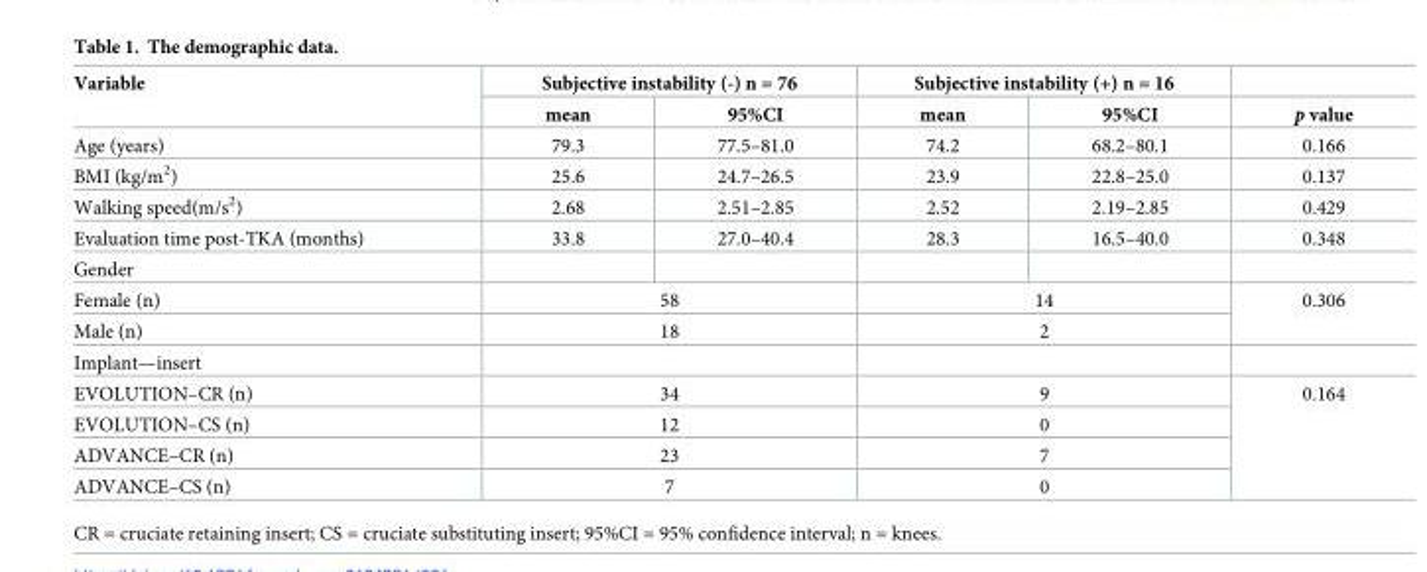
<table><thead><tr><td rowspan="2">Variable</td><td colspan="2">Subjective instability (-) n = 76</td><td colspan="2">Subjective instability (+) n = 16</td><td rowspan="2">p value</td></tr><tr><td>mean</td><td>95%CI</td><td>mean</td><td>95%CI</td></tr></thead><tbody><tr><td>Age (years)</td><td>79.3</td><td>77.5–81.0</td><td>74.2</td><td>68.2–80.1</td><td>0.166</td></tr><tr><td>BMI (kg/m<sup>2</sup>)</td><td>25.6</td><td>24.7–26.5</td><td>23.9</td><td>22.8–25.0</td><td>0.137</td></tr><tr><td>Walking speed(m/s<sup>2</sup>)</td><td>2.68</td><td>2.51–2.85</td><td>2.52</td><td>2.19–2.85</td><td>0.429</td></tr><tr><td>Evaluation time post-TKA (months)</td><td>33.8</td><td>27.0–40.4</td><td>28.3</td><td>16.5–40.0</td><td>0.348</td></tr><tr><td colspan="6">Gender</td></tr><tr><td>Female (n)</td><td colspan="2">58</td><td colspan="2">14</td><td rowspan="2">0.306</td></tr><tr><td>Male (n)</td><td colspan="2">18</td><td colspan="2">2</td></tr><tr><td colspan="6">Implant—insert</td></tr><tr><td>EVOLUTION–CR (n)</td><td colspan="2">34</td><td colspan="2">9</td><td rowspan="4">0.164</td></tr><tr><td>EVOLUTION–CS (n)</td><td colspan="2">12</td><td colspan="2">0</td></tr><tr><td>ADVANCE–CR (n)</td><td colspan="2">23</td><td colspan="2">7</td></tr><tr><td>ADVANCE–CS (n)</td><td colspan="2">7</td><td colspan="2">0</td></tr></tbody></table>